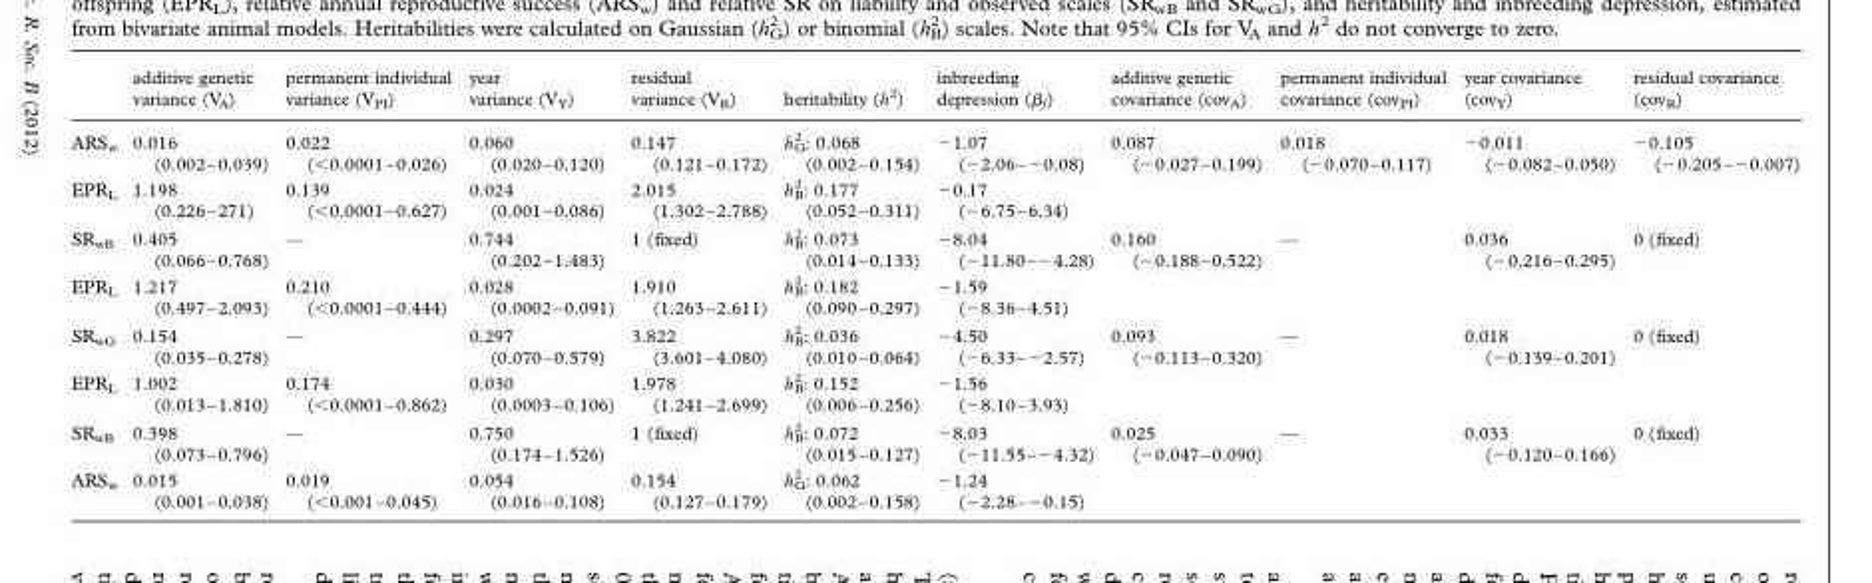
<table><thead><tr><td></td><td>additive genetic variance (V<sub>A</sub>)</td><td>permanent individual variance (V<sub>PI</sub>)</td><td>year variance (V<sub>Y</sub>)</td><td>residual variance (V<sub>R</sub>)</td><td>heritability (h<sup>2</sup>)</td><td>inbreeding depression (β<sub>f</sub>)</td><td>additive genetic covariance (cov<sub>A</sub>)</td><td>permanent individual covariance (cov<sub>PI</sub>)</td><td>year covariance (cov<sub>Y</sub>)</td><td>residual covariance (cov<sub>R</sub>)</td></tr></thead><tbody><tr><td>ARS<sub>w</sub></td><td>0.016 (0.002–0.039)</td><td>0.022 (&lt;0.0001–0.026)</td><td>0.060 (0.020–0.120)</td><td>0.147 (0.121–0.172)</td><td>h<sup>2</sup> <sub>G</sub>: 0.068 (0.002–0.154)</td><td>−1.07 (−2.06–−0.08)</td><td>0.087 (−0.027–0.199)</td><td>0.018 (−0.070–0.117)</td><td>−0.011 (−0.082–0.050)</td><td>−0.105 (−0.205–−0.007)</td></tr><tr><td>EPR<sub>L</sub></td><td>1.198 (0.226–271)</td><td>0.139 (&lt;0.0001–0.627)</td><td>0.024 (0.001–0.086)</td><td>2.015 (1.302–2.788)</td><td>h<sup>2</sup> <sub>B</sub>: 0.177 (0.052–0.311)</td><td>−0.17 (−6.75–6.34)</td><td></td><td></td><td></td><td></td></tr><tr><td>SR<sub>wB</sub></td><td>0.405 (0.066–0.768)</td><td>—</td><td>0.744 (0.202–1.483)</td><td>1 (fixed)</td><td>h<sup>2</sup> <sub>B</sub>: 0.073 (0.014–0.133)</td><td>−8.04 (−11.80–−4.28)</td><td>0.160 (−0.188–0.522)</td><td>—</td><td>0.036 (−0.216–0.295)</td><td>0 (fixed)</td></tr><tr><td>EPR<sub>L</sub></td><td>1.217 (0.497–2.093)</td><td>0.210 (&lt;0.0001–0.444)</td><td>0.028 (0.0002–0.091)</td><td>1.910 (1.263–2.611)</td><td>h<sup>2</sup> <sub>B</sub>: 0.182 (0.090–0.297)</td><td>−1.59 (−8.36–4.51)</td><td></td><td></td><td></td><td></td></tr><tr><td>SR<sub>wG</sub></td><td>0.154 (0.035–0.278)</td><td>—</td><td>0.297 (0.070–0.579)</td><td>3.822 (3.601–4.080)</td><td>h<sup>2</sup> <sub>B</sub>: 0.036 (0.010–0.064)</td><td>−4.50 (−6.33–−2.57)</td><td>0.093 (−0.113–0.320)</td><td>—</td><td>0.018 (−0.139–0.201)</td><td>0 (fixed)</td></tr><tr><td>EPR<sub>L</sub></td><td>1.002 (0.013–1.810)</td><td>0.174 (&lt;0.0001–0.862)</td><td>0.030 (0.0003–0.106)</td><td>1.978 (1.241–2.699)</td><td>h<sup>2</sup> <sub>B</sub>: 0.152 (0.006–0.256)</td><td>−1.56 (−8.10–3.93)</td><td></td><td></td><td></td><td></td></tr><tr><td>SR<sub>wB</sub></td><td>0.398 (0.073–0.796)</td><td>—</td><td>0.750 (0.174–1.526)</td><td>1 (fixed)</td><td>h<sup>2</sup> <sub>B</sub>: 0.072 (0.015–0.127)</td><td>−8.03 (−11.55–−4.32)</td><td>0.025 (−0.047–0.090)</td><td>—</td><td>0.033 (−0.120–0.166)</td><td>0 (fixed)</td></tr><tr><td>ARS<sub>w</sub></td><td>0.015 (0.001–0.038)</td><td>0.019 (&lt;0.001–0.045)</td><td>0.054 (0.016–0.108)</td><td>0.154 (0.127–0.179)</td><td>h<sup>2</sup> <sub>G</sub>: 0.062 (0.002–0.158)</td><td>−1.24 (−2.28–−0.15)</td><td></td><td></td><td></td><td></td></tr></tbody></table>